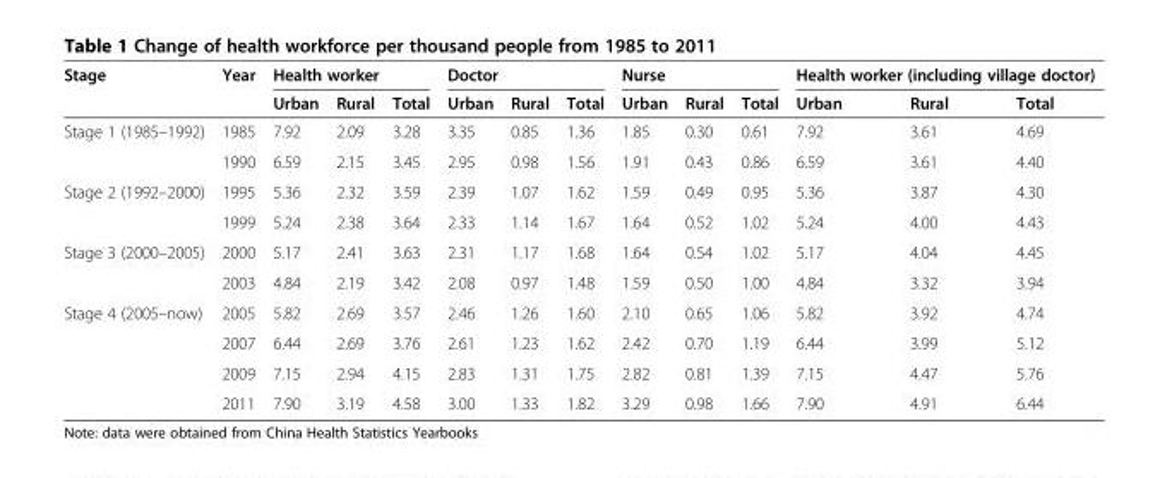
<table><thead><tr><td rowspan="2">Stage</td><td rowspan="2">Year</td><td colspan="3">Health worker</td><td colspan="3">Doctor</td><td colspan="3">Nurse</td><td colspan="3">Health worker (including village doctor)</td></tr><tr><td>Urban</td><td>Rural</td><td>Total</td><td>Urban</td><td>Rural</td><td>Total</td><td>Urban</td><td>Rural</td><td>Total</td><td>Urban</td><td>Rural</td><td>Total</td></tr></thead><tbody><tr><td rowspan="2">Stage 1 (1985–1992)</td><td>1985</td><td>7.92</td><td>2.09</td><td>3.28</td><td>3.35</td><td>0.85</td><td>1.36</td><td>1.85</td><td>0.30</td><td>0.61</td><td>7.92</td><td>3.61</td><td>4.69</td></tr><tr><td>1990</td><td>6.59</td><td>2.15</td><td>3.45</td><td>2.95</td><td>0.98</td><td>1.56</td><td>1.91</td><td>0.43</td><td>0.86</td><td>6.59</td><td>3.61</td><td>4.40</td></tr><tr><td rowspan="2">Stage 2 (1992–2000)</td><td>1995</td><td>5.36</td><td>2.32</td><td>3.59</td><td>2.39</td><td>1.07</td><td>1.62</td><td>1.59</td><td>0.49</td><td>0.95</td><td>5.36</td><td>3.87</td><td>4.30</td></tr><tr><td>1999</td><td>5.24</td><td>2.38</td><td>3.64</td><td>2.33</td><td>1.14</td><td>1.67</td><td>1.64</td><td>0.52</td><td>1.02</td><td>5.24</td><td>4.00</td><td>4.43</td></tr><tr><td rowspan="2">Stage 3 (2000–2005)</td><td>2000</td><td>5.17</td><td>2.41</td><td>3.63</td><td>2.31</td><td>1.17</td><td>1.68</td><td>1.64</td><td>0.54</td><td>1.02</td><td>5.17</td><td>4.04</td><td>4.45</td></tr><tr><td>2003</td><td>4.84</td><td>2.19</td><td>3.42</td><td>2.08</td><td>0.97</td><td>1.48</td><td>1.59</td><td>0.50</td><td>1.00</td><td>4.84</td><td>3.32</td><td>3.94</td></tr><tr><td rowspan="4">Stage 4 (2005–now)</td><td>2005</td><td>5.82</td><td>2.69</td><td>3.57</td><td>2.46</td><td>1.26</td><td>1.60</td><td>2.10</td><td>0.65</td><td>1.06</td><td>5.82</td><td>3.92</td><td>4.74</td></tr><tr><td>2007</td><td>6.44</td><td>2.69</td><td>3.76</td><td>2.61</td><td>1.23</td><td>1.62</td><td>2.42</td><td>0.70</td><td>1.19</td><td>6.44</td><td>3.99</td><td>5.12</td></tr><tr><td>2009</td><td>7.15</td><td>2.94</td><td>4.15</td><td>2.83</td><td>1.31</td><td>1.75</td><td>2.82</td><td>0.81</td><td>1.39</td><td>7.15</td><td>4.47</td><td>5.76</td></tr><tr><td>2011</td><td>7.90</td><td>3.19</td><td>4.58</td><td>3.00</td><td>1.33</td><td>1.82</td><td>3.29</td><td>0.98</td><td>1.66</td><td>7.90</td><td>4.91</td><td>6.44</td></tr></tbody></table>